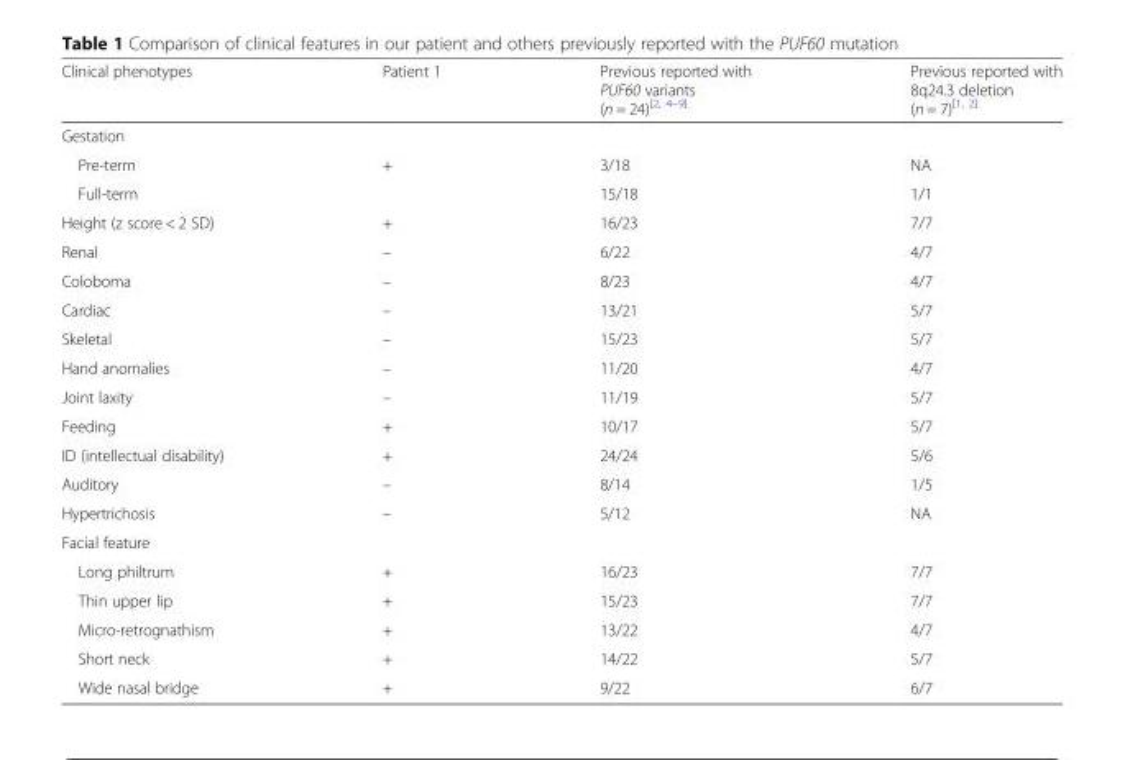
<table><thead><tr><td>Clinical phenotypes</td><td>Patient 1</td><td>Previous reported with PUF60 variants (n = 24)<sup>[2, 4–9]</sup></td><td>Previous reported with 8q24.3 deletion (n = 7)<sup>[1, 2]</sup></td></tr></thead><tbody><tr><td colspan="4">Gestation</td></tr><tr><td>Pre-term</td><td>+</td><td>3/18</td><td>NA</td></tr><tr><td>Full-term</td><td></td><td>15/18</td><td>1/1</td></tr><tr><td>Height (z score &lt; 2 SD)</td><td>+</td><td>16/23</td><td>7/7</td></tr><tr><td>Renal</td><td>–</td><td>6/22</td><td>4/7</td></tr><tr><td>Coloboma</td><td>–</td><td>8/23</td><td>4/7</td></tr><tr><td>Cardiac</td><td>–</td><td>13/21</td><td>5/7</td></tr><tr><td>Skeletal</td><td>–</td><td>15/23</td><td>5/7</td></tr><tr><td>Hand anomalies</td><td>–</td><td>11/20</td><td>4/7</td></tr><tr><td>Joint laxity</td><td>–</td><td>11/19</td><td>5/7</td></tr><tr><td>Feeding</td><td>+</td><td>10/17</td><td>5/7</td></tr><tr><td>ID (intellectual disability)</td><td>+</td><td>24/24</td><td>5/6</td></tr><tr><td>Auditory</td><td>–</td><td>8/14</td><td>1/5</td></tr><tr><td>Hypertrichosis</td><td>–</td><td>5/12</td><td>NA</td></tr><tr><td colspan="4">Facial feature</td></tr><tr><td>Long philtrum</td><td>+</td><td>16/23</td><td>7/7</td></tr><tr><td>Thin upper lip</td><td>+</td><td>15/23</td><td>7/7</td></tr><tr><td>Micro-retrognathism</td><td>+</td><td>13/22</td><td>4/7</td></tr><tr><td>Short neck</td><td>+</td><td>14/22</td><td>5/7</td></tr><tr><td>Wide nasal bridge</td><td>+</td><td>9/22</td><td>6/7</td></tr></tbody></table>